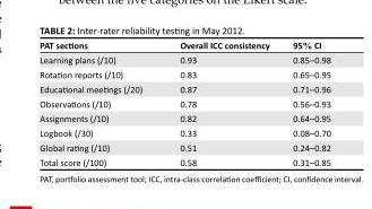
<table><thead><tr><td>PAT sections</td><td>Overall ICC consistency</td><td>95% CI</td></tr></thead><tbody><tr><td>Learning plans (/10)</td><td>0.93</td><td>0.85–0.98</td></tr><tr><td>Rotation reports (/10)</td><td>0.83</td><td>0.65–0.95</td></tr><tr><td>Educational meetings (/20)</td><td>0.87</td><td>0.71–0.96</td></tr><tr><td>Observations (/10)</td><td>0.78</td><td>0.56–0.93</td></tr><tr><td>Assignments (/10)</td><td>0.82</td><td>0.64–0.95</td></tr><tr><td>Logbook (/30)</td><td>0.33</td><td>0.08–0.70</td></tr><tr><td>Global rating (/10)</td><td>0.51</td><td>0.24–0.82</td></tr><tr><td>Total score (/100)</td><td>0.58</td><td>0.31–0.85</td></tr></tbody></table>